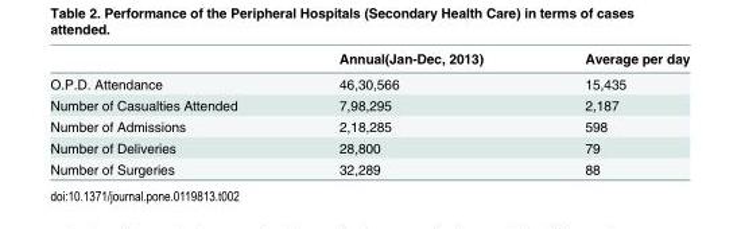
<table><thead><tr><td></td><td>Annual(Jan-Dec, 2013)</td><td>Average per day</td></tr></thead><tbody><tr><td>O.P.D. Attendance</td><td>46,30,566</td><td>15,435</td></tr><tr><td>Number of Casualties Attended</td><td>7,98,295</td><td>2,187</td></tr><tr><td>Number of Admissions</td><td>2,18,285</td><td>598</td></tr><tr><td>Number of Deliveries</td><td>28,800</td><td>79</td></tr><tr><td>Number of Surgeries</td><td>32,289</td><td>88</td></tr></tbody></table>